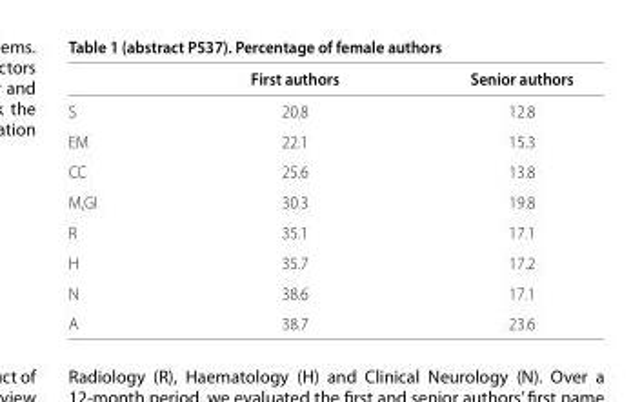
<table><thead><tr><td></td><td>First authors</td><td>Senior authors</td></tr></thead><tbody><tr><td>S</td><td>20.8</td><td>12.8</td></tr><tr><td>EM</td><td>22.1</td><td>15.3</td></tr><tr><td>CC</td><td>25.6</td><td>13.8</td></tr><tr><td>M,GI</td><td>30.3</td><td>19.8</td></tr><tr><td>R</td><td>35.1</td><td>17.1</td></tr><tr><td>H</td><td>35.7</td><td>17.2</td></tr><tr><td>N</td><td>38.6</td><td>17.1</td></tr><tr><td>A</td><td>38.7</td><td>23.6</td></tr></tbody></table>